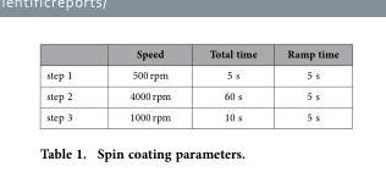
<table><thead><tr><td></td><td>Speed</td><td>Total time</td><td>Ramp time</td></tr></thead><tbody><tr><td>step 1</td><td>500 rpm</td><td>5 s</td><td>5 s</td></tr><tr><td>step 2</td><td>4000 rpm</td><td>60 s</td><td>5 s</td></tr><tr><td>step 3</td><td>1000 rpm</td><td>10 s</td><td>5 s</td></tr></tbody></table>